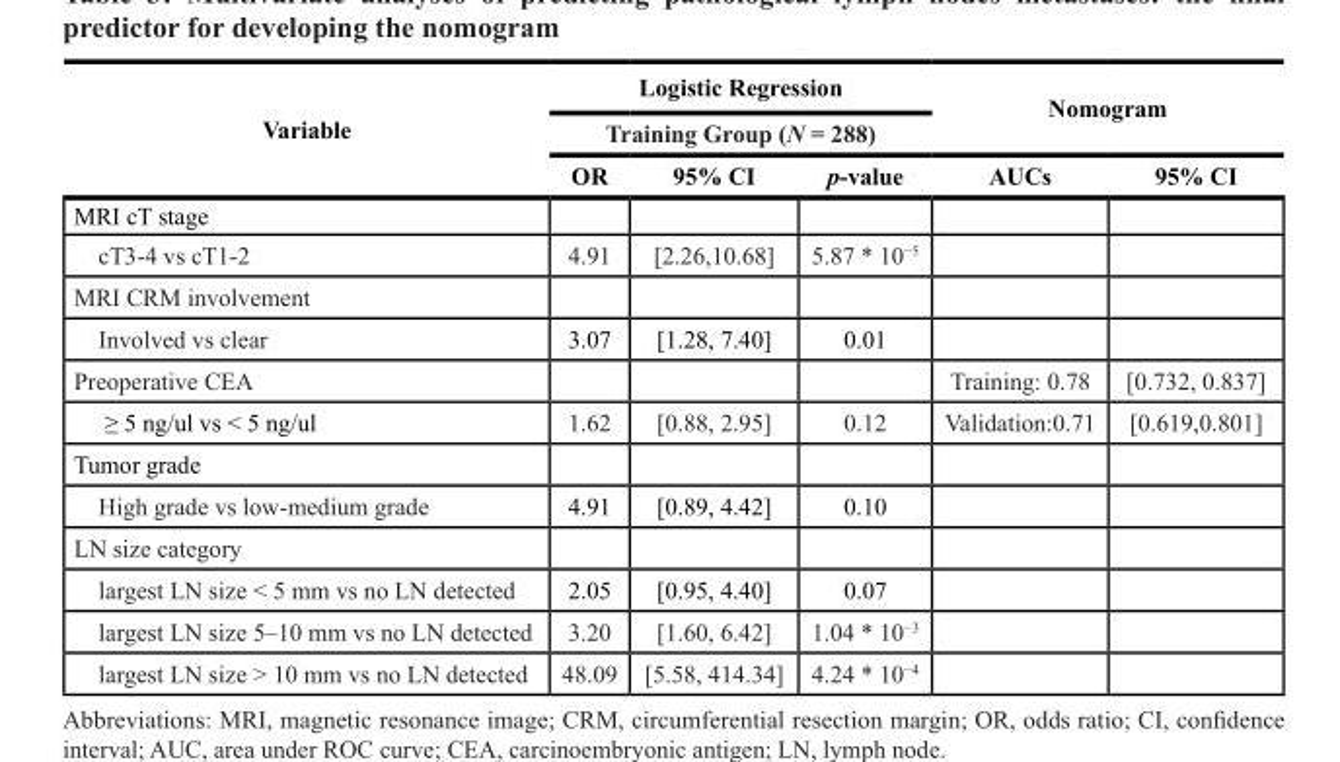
<table><thead><tr><td rowspan="3">Variable</td><td rowspan="2" colspan="3">Logistic Regression Training Group (N = 288)</td><td rowspan="2" colspan="2">Nomogram</td></tr><tr></tr><tr><td>OR</td><td>95% CI</td><td>p-value</td><td>AUCs</td><td>95% CI</td></tr></thead><tbody><tr><td colspan="6">MRI cT stage</td></tr><tr><td>cT3-4 vs cT1-2</td><td>4.91</td><td>[2.26,10.68]</td><td>5.87 * 10<sup>−5</sup></td><td></td><td></td></tr><tr><td colspan="6">MRI CRM involvement</td></tr><tr><td>Involved vs clear</td><td>3.07</td><td>[1.28, 7.40]</td><td>0.01</td><td></td><td></td></tr><tr><td>Preoperative CEA</td><td></td><td></td><td></td><td>Training: 0.78</td><td>[0.732, 0.837]</td></tr><tr><td>≥ 5 ng/ul vs &lt; 5 ng/ul</td><td>1.62</td><td>[0.88, 2.95]</td><td>0.12</td><td>Validation:0.71</td><td>[0.619,0.801]</td></tr><tr><td colspan="6">Tumor grade</td></tr><tr><td>High grade vs low-medium grade</td><td>4.91</td><td>[0.89, 4.42]</td><td>0.10</td><td></td><td></td></tr><tr><td colspan="6">LN size category</td></tr><tr><td>largest LN size &lt; 5 mm vs no LN detected</td><td>2.05</td><td>[0.95, 4.40]</td><td>0.07</td><td></td><td></td></tr><tr><td>largest LN size 5–10 mm vs no LN detected</td><td>3.20</td><td>[1.60, 6.42]</td><td>1.04 * 10<sup>−3</sup></td><td></td><td></td></tr><tr><td>largest LN size &gt; 10 mm vs no LN detected</td><td>48.09</td><td>[5.58, 414.34]</td><td>4.24 * 10<sup>−4</sup></td><td></td><td></td></tr></tbody></table>